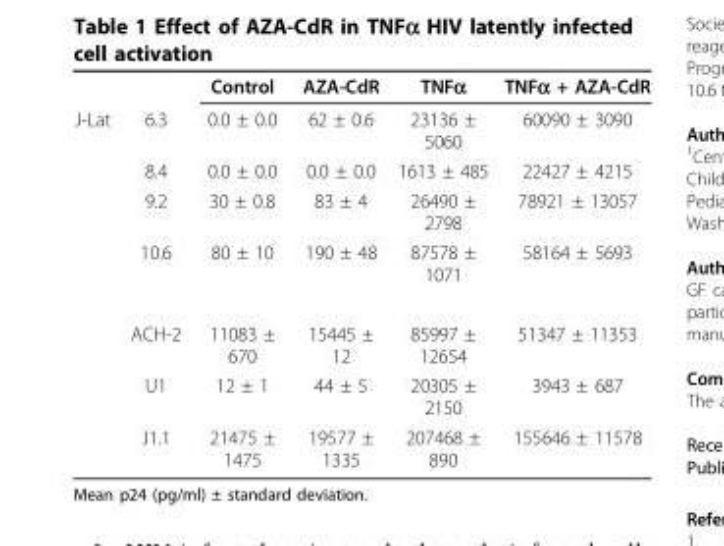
<table><thead><tr><td></td><td></td><td>Control</td><td>AZA-CdR</td><td>TNFα</td><td>TNFα + AZA-CdR</td></tr></thead><tbody><tr><td rowspan="7">J-Lat</td><td>6.3</td><td>0.0 ± 0.0</td><td>62 ± 0.6</td><td>23136 ± 5060</td><td>60090 ± 3090</td></tr><tr><td>8.4</td><td>0.0 ± 0.0</td><td>0.0 ± 0.0</td><td>1613 ± 485</td><td>22427 ± 4215</td></tr><tr><td>9.2</td><td>30 ± 0.8</td><td>83 ± 4</td><td>26490 ± 2798</td><td>78921 ± 13057</td></tr><tr><td>10.6</td><td>80 ± 10</td><td>190 ± 48</td><td>87578 ± 1071</td><td>58164 ± 5693</td></tr><tr><td>ACH-2</td><td>11083 ± 670</td><td>15445 ± 12</td><td>85997 ± 12654</td><td>51347 ± 11353</td></tr><tr><td>U1</td><td>12 ± 1</td><td>44 ± 5</td><td>20305 ± 2150</td><td>3943 ± 687</td></tr><tr><td>J1.1</td><td>21475 ± 1475</td><td>19577 ± 1335</td><td>207468 ± 890</td><td>155646 ± 11578</td></tr></tbody></table>